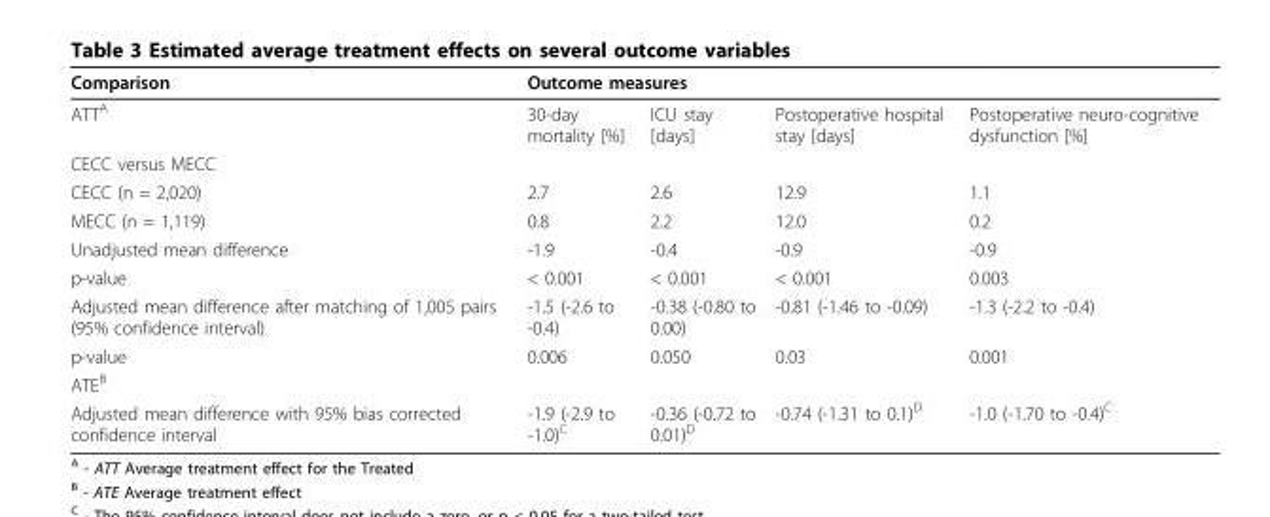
<table><thead><tr><td rowspan="2">Comparison ATT<sup>A</sup></td><td colspan="4">Outcome measures</td></tr><tr><td>30-day mortality [%]</td><td>ICU stay [days]</td><td>Postoperative hospital stay [days]</td><td>Postoperative neuro-cognitive dysfunction [%]</td></tr></thead><tbody><tr><td colspan="5">CECC versus MECC</td></tr><tr><td>CECC (n = 2,020)</td><td>2.7</td><td>2.6</td><td>12.9</td><td>1.1</td></tr><tr><td>MECC (n = 1,119)</td><td>0.8</td><td>2.2</td><td>12.0</td><td>0.2</td></tr><tr><td>Unadjusted mean difference</td><td>-1.9</td><td>-0.4</td><td>-0.9</td><td>-0.9</td></tr><tr><td>p-value</td><td>&lt; 0.001</td><td>&lt; 0.001</td><td>&lt; 0.001</td><td>0.003</td></tr><tr><td>Adjusted mean difference after matching of 1,005 pairs (95% confidence interval)</td><td>-1.5 (-2.6 to -0.4)</td><td>-0.38 (-0.80 to 0.00)</td><td>-0.81 (-1.46 to -0.09)</td><td>-1.3 (-2.2 to -0.4)</td></tr><tr><td>p-value</td><td>0.006</td><td>0.050</td><td>0.03</td><td>0.001</td></tr><tr><td colspan="5">ATE<sup>B</sup></td></tr><tr><td>Adjusted mean difference with 95% bias corrected confidence interval</td><td>-1.9 (-2.9 to -1.0)<sup>C</sup></td><td>-0.36 (-0.72 to 0.01)<sup>D</sup></td><td>-0.74 (-1.31 to 0.1)<sup>D</sup></td><td>-1.0 (-1.70 to -0.4)<sup>C</sup></td></tr></tbody></table>